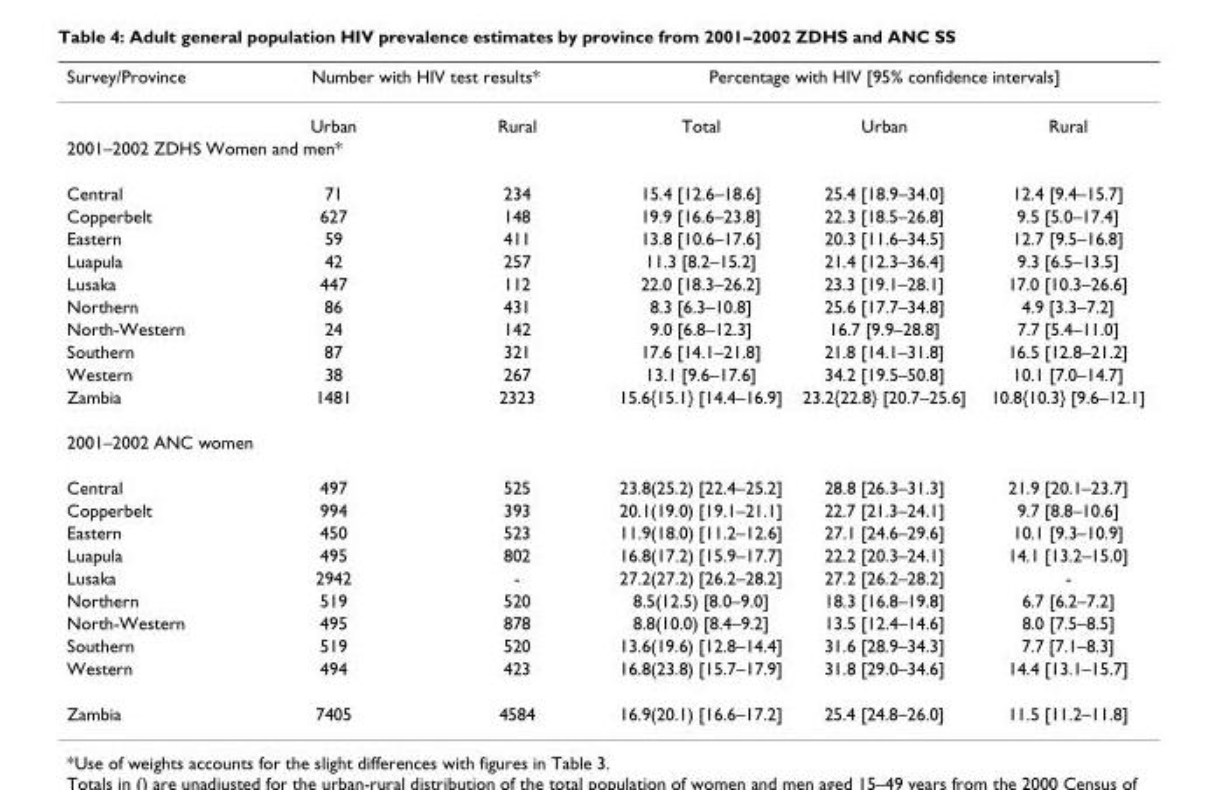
<table><thead><tr><td rowspan="2">Survey/Province</td><td colspan="2">Number with HIV test results*</td><td colspan="3">Percentage with HIV [95% confidence intervals]</td></tr><tr><td>Urban</td><td>Rural</td><td>Total</td><td>Urban</td><td>Rural</td></tr></thead><tbody><tr><td colspan="6">2001–2002 ZDHS Women and men*</td></tr><tr><td>Central</td><td>71</td><td>234</td><td>15.4 [12.6–18.6]</td><td>25.4 [18.9–34.0]</td><td>12.4 [9.4–15.7]</td></tr><tr><td>Copperbelt</td><td>627</td><td>148</td><td>19.9 [16.6–23.8]</td><td>22.3 [18.5–26.8]</td><td>9.5 [5.0–17.4]</td></tr><tr><td>Eastern</td><td>59</td><td>411</td><td>13.8 [10.6–17.6]</td><td>20.3 [11.6–34.5]</td><td>12.7 [9.5–16.8]</td></tr><tr><td>Luapula</td><td>42</td><td>257</td><td>11.3 [8.2–15.2]</td><td>21.4 [12.3–36.4]</td><td>9.3 [6.5–13.5]</td></tr><tr><td>Lusaka</td><td>447</td><td>112</td><td>22.0 [18.3–26.2]</td><td>23.3 [19.1–28.1]</td><td>17.0 [10.3–26.6]</td></tr><tr><td>Northern</td><td>86</td><td>431</td><td>8.3 [6.3–10.8]</td><td>25.6 [17.7–34.8]</td><td>4.9 [3.3–7.2]</td></tr><tr><td>North-Western</td><td>24</td><td>142</td><td>9.0 [6.8–12.3]</td><td>16.7 [9.9–28.8]</td><td>7.7 [5.4–11.0]</td></tr><tr><td>Southern</td><td>87</td><td>321</td><td>17.6 [14.1–21.8]</td><td>21.8 [14.1–31.8]</td><td>16.5 [12.8–21.2]</td></tr><tr><td>Western</td><td>38</td><td>267</td><td>13.1 [9.6–17.6]</td><td>34.2 [19.5–50.8]</td><td>10.1 [7.0–14.7]</td></tr><tr><td>Zambia</td><td>1481</td><td>2323</td><td>15.6{15.1} [14.4–16.9]</td><td>23.2{22.8} [20.7–25.6]</td><td>10.8{10.3} [9.6–12.1]</td></tr><tr><td colspan="6">2001–2002 ANC women</td></tr><tr><td>Central</td><td>497</td><td>525</td><td>23.8(25.2) [22.4–25.2]</td><td>28.8 [26.3–31.3]</td><td>21.9 [20.1–23.7]</td></tr><tr><td>Copperbelt</td><td>994</td><td>393</td><td>20.1(19.0) [19.1–21.1]</td><td>22.7 [21.3–24.1]</td><td>9.7 [8.8–10.6]</td></tr><tr><td>Eastern</td><td>450</td><td>523</td><td>11.9(18.0) [11.2–12.6]</td><td>27.1 [24.6–29.6]</td><td>10.1 [9.3–10.9]</td></tr><tr><td>Luapula</td><td>495</td><td>802</td><td>16.8(17.2) [15.9–17.7]</td><td>22.2 [20.3–24.1]</td><td>14.1 [13.2–15.0]</td></tr><tr><td>Lusaka</td><td>2942</td><td>-</td><td>27.2(27.2) [26.2–28.2]</td><td>27.2 [26.2–28.2]</td><td>-</td></tr><tr><td>Northern</td><td>519</td><td>520</td><td>8.5(12.5) [8.0–9.0]</td><td>18.3 [16.8–19.8]</td><td>6.7 [6.2–7.2]</td></tr><tr><td>North-Western</td><td>495</td><td>878</td><td>8.8(10.0) [8.4–9.2]</td><td>13.5 [12.4–14.6]</td><td>8.0 [7.5–8.5]</td></tr><tr><td>Southern</td><td>519</td><td>520</td><td>13.6(19.6) [12.8–14.4]</td><td>31.6 [28.9–34.3]</td><td>7.7 [7.1–8.3]</td></tr><tr><td>Western</td><td>494</td><td>423</td><td>16.8(23.8) [15.7–17.9]</td><td>31.8 [29.0–34.6]</td><td>14.4 [13.1–15.7]</td></tr><tr><td>Zambia</td><td>7405</td><td>4584</td><td>16.9(20.1) [16.6–17.2]</td><td>25.4 [24.8–26.0]</td><td>11.5 [11.2–11.8]</td></tr></tbody></table>